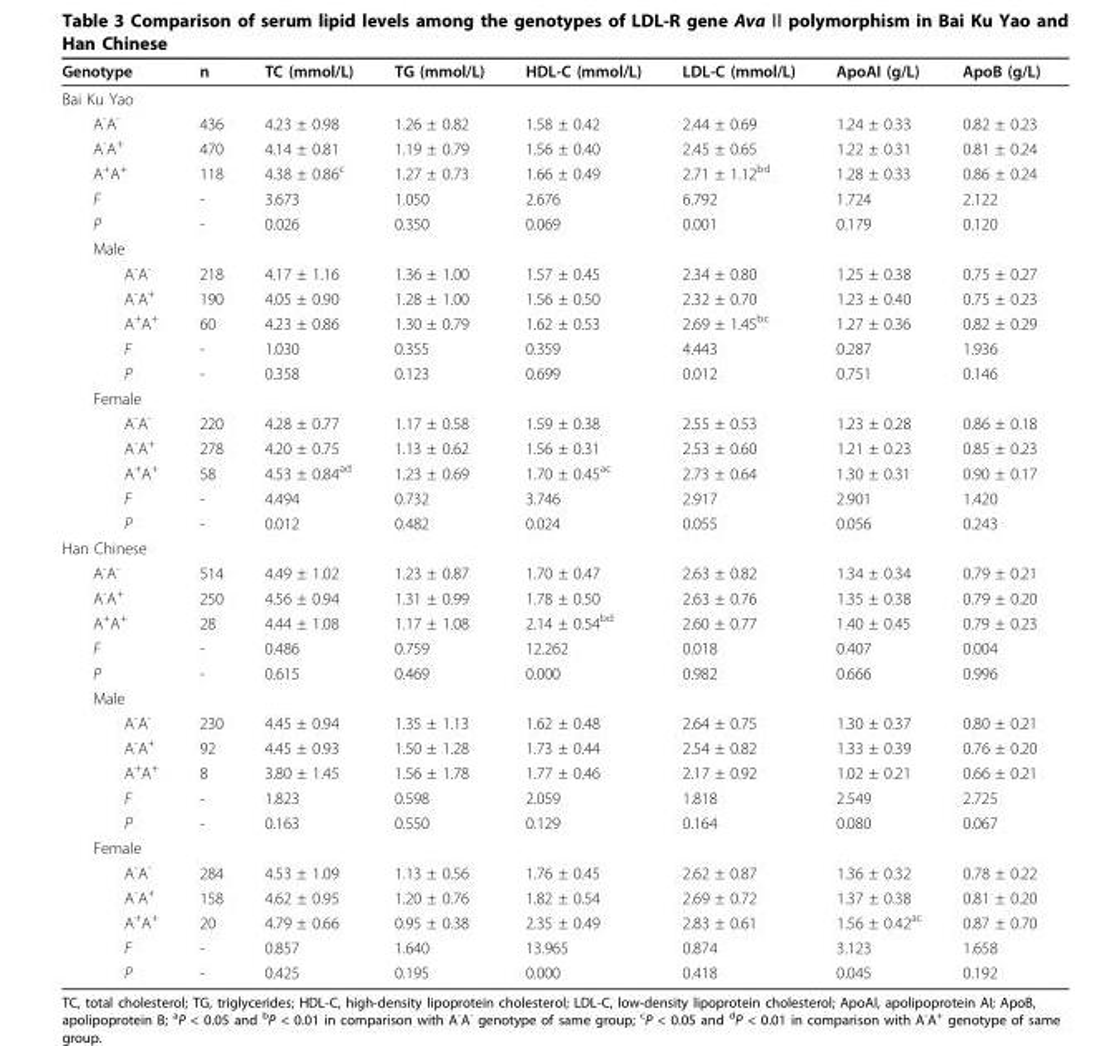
<table><thead><tr><td>Genotype</td><td>n</td><td>TC (mmol/L)</td><td>TG (mmol/L)</td><td>HDL-C (mmol/L)</td><td>LDL-C (mmol/L)</td><td>ApoAI (g/L)</td><td>ApoB (g/L)</td></tr></thead><tbody><tr><td colspan="8">Bai Ku Yao</td></tr><tr><td>A<sup>-</sup>A<sup>-</sup></td><td>436</td><td>4.23 ± 0.98</td><td>1.26 ± 0.82</td><td>1.58 ± 0.42</td><td>2.44 ± 0.69</td><td>1.24 ± 0.33</td><td>0.82 ± 0.23</td></tr><tr><td>A<sup>-</sup>A<sup>+</sup></td><td>470</td><td>4.14 ± 0.81</td><td>1.19 ± 0.79</td><td>1.56 ± 0.40</td><td>2.45 ± 0.65</td><td>1.22 ± 0.31</td><td>0.81 ± 0.24</td></tr><tr><td>A<sup>+</sup>A<sup>+</sup></td><td>118</td><td>4.38 ± 0.86<sup>c</sup></td><td>1.27 ± 0.73</td><td>1.66 ± 0.49</td><td>2.71 ± 1.12<sup>bd</sup></td><td>1.28 ± 0.33</td><td>0.86 ± 0.24</td></tr><tr><td>F</td><td>-</td><td>3.673</td><td>1.050</td><td>2.676</td><td>6.792</td><td>1.724</td><td>2.122</td></tr><tr><td>P</td><td>-</td><td>0.026</td><td>0.350</td><td>0.069</td><td>0.001</td><td>0.179</td><td>0.120</td></tr><tr><td colspan="8">Male</td></tr><tr><td>A<sup>-</sup>A<sup>-</sup></td><td>218</td><td>4.17 ± 1.16</td><td>1.36 ± 1.00</td><td>1.57 ± 0.45</td><td>2.34 ± 0.80</td><td>1.25 ± 0.38</td><td>0.75 ± 0.27</td></tr><tr><td>A<sup>-</sup>A<sup>+</sup></td><td>190</td><td>4.05 ± 0.90</td><td>1.28 ± 1.00</td><td>1.56 ± 0.50</td><td>2.32 ± 0.70</td><td>1.23 ± 0.40</td><td>0.75 ± 0.23</td></tr><tr><td>A<sup>+</sup>A<sup>+</sup></td><td>60</td><td>4.23 ± 0.86</td><td>1.30 ± 0.79</td><td>1.62 ± 0.53</td><td>2.69 ± 1.45<sup>bc</sup></td><td>1.27 ± 0.36</td><td>0.82 ± 0.29</td></tr><tr><td>F</td><td>-</td><td>1.030</td><td>0.355</td><td>0.359</td><td>4.443</td><td>0.287</td><td>1.936</td></tr><tr><td>P</td><td>-</td><td>0.358</td><td>0.123</td><td>0.699</td><td>0.012</td><td>0.751</td><td>0.146</td></tr><tr><td colspan="8">Female</td></tr><tr><td>A<sup>-</sup>A<sup>-</sup></td><td>220</td><td>4.28 ± 0.77</td><td>1.17 ± 0.58</td><td>1.59 ± 0.38</td><td>2.55 ± 0.53</td><td>1.23 ± 0.28</td><td>0.86 ± 0.18</td></tr><tr><td>A<sup>-</sup>A<sup>+</sup></td><td>278</td><td>4.20 ± 0.75</td><td>1.13 ± 0.62</td><td>1.56 ± 0.31</td><td>2.53 ± 0.60</td><td>1.21 ± 0.23</td><td>0.85 ± 0.23</td></tr><tr><td>A<sup>+</sup>A<sup>+</sup></td><td>58</td><td>4.53 ± 0.84<sup>ad</sup></td><td>1.23 ± 0.69</td><td>1.70 ± 0.45<sup>ac</sup></td><td>2.73 ± 0.64</td><td>1.30 ± 0.31</td><td>0.90 ± 0.17</td></tr><tr><td>F</td><td>-</td><td>4.494</td><td>0.732</td><td>3.746</td><td>2.917</td><td>2.901</td><td>1.420</td></tr><tr><td>P</td><td>-</td><td>0.012</td><td>0.482</td><td>0.024</td><td>0.055</td><td>0.056</td><td>0.243</td></tr><tr><td colspan="8">Han Chinese</td></tr><tr><td>A<sup>-</sup>A<sup>-</sup></td><td>514</td><td>4.49 ± 1.02</td><td>1.23 ± 0.87</td><td>1.70 ± 0.47</td><td>2.63 ± 0.82</td><td>1.34 ± 0.34</td><td>0.79 ± 0.21</td></tr><tr><td>A<sup>-</sup>A<sup>+</sup></td><td>250</td><td>4.56 ± 0.94</td><td>1.31 ± 0.99</td><td>1.78 ± 0.50</td><td>2.63 ± 0.76</td><td>1.35 ± 0.38</td><td>0.79 ± 0.20</td></tr><tr><td>A<sup>+</sup>A<sup>+</sup></td><td>28</td><td>4.44 ± 1.08</td><td>1.17 ± 1.08</td><td>2.14 ± 0.54<sup>bd</sup></td><td>2.60 ± 0.77</td><td>1.40 ± 0.45</td><td>0.79 ± 0.23</td></tr><tr><td>F</td><td>-</td><td>0.486</td><td>0.759</td><td>12.262</td><td>0.018</td><td>0.407</td><td>0.004</td></tr><tr><td>P</td><td>-</td><td>0.615</td><td>0.469</td><td>0.000</td><td>0.982</td><td>0.666</td><td>0.996</td></tr><tr><td colspan="8">Male</td></tr><tr><td>A<sup>-</sup>A<sup>-</sup></td><td>230</td><td>4.45 ± 0.94</td><td>1.35 ± 1.13</td><td>1.62 ± 0.48</td><td>2.64 ± 0.75</td><td>1.30 ± 0.37</td><td>0.80 ± 0.21</td></tr><tr><td>A<sup>-</sup>A<sup>+</sup></td><td>92</td><td>4.45 ± 0.93</td><td>1.50 ± 1.28</td><td>1.73 ± 0.44</td><td>2.54 ± 0.82</td><td>1.33 ± 0.39</td><td>0.76 ± 0.20</td></tr><tr><td>A<sup>+</sup>A<sup>+</sup></td><td>8</td><td>3.80 ± 1.45</td><td>1.56 ± 1.78</td><td>1.77 ± 0.46</td><td>2.17 ± 0.92</td><td>1.02 ± 0.21</td><td>0.66 ± 0.21</td></tr><tr><td>F</td><td>-</td><td>1.823</td><td>0.598</td><td>2.059</td><td>1.818</td><td>2.549</td><td>2.725</td></tr><tr><td>P</td><td>-</td><td>0.163</td><td>0.550</td><td>0.129</td><td>0.164</td><td>0.080</td><td>0.067</td></tr><tr><td colspan="8">Female</td></tr><tr><td>A<sup>-</sup>A<sup>-</sup></td><td>284</td><td>4.53 ± 1.09</td><td>1.13 ± 0.56</td><td>1.76 ± 0.45</td><td>2.62 ± 0.87</td><td>1.36 ± 0.32</td><td>0.78 ± 0.22</td></tr><tr><td>A<sup>-</sup>A<sup>+</sup></td><td>158</td><td>4.62 ± 0.95</td><td>1.20 ± 0.76</td><td>1.82 ± 0.54</td><td>2.69 ± 0.72</td><td>1.37 ± 0.38</td><td>0.81 ± 0.20</td></tr><tr><td>A<sup>+</sup>A<sup>+</sup></td><td>20</td><td>4.79 ± 0.66</td><td>0.95 ± 0.38</td><td>2.35 ± 0.49</td><td>2.83 ± 0.61</td><td>1.56 ± 0.42<sup>ac</sup></td><td>0.87 ± 0.70</td></tr><tr><td>F</td><td>-</td><td>0.857</td><td>1.640</td><td>13.965</td><td>0.874</td><td>3.123</td><td>1.658</td></tr><tr><td>P</td><td>-</td><td>0.425</td><td>0.195</td><td>0.000</td><td>0.418</td><td>0.045</td><td>0.192</td></tr></tbody></table>